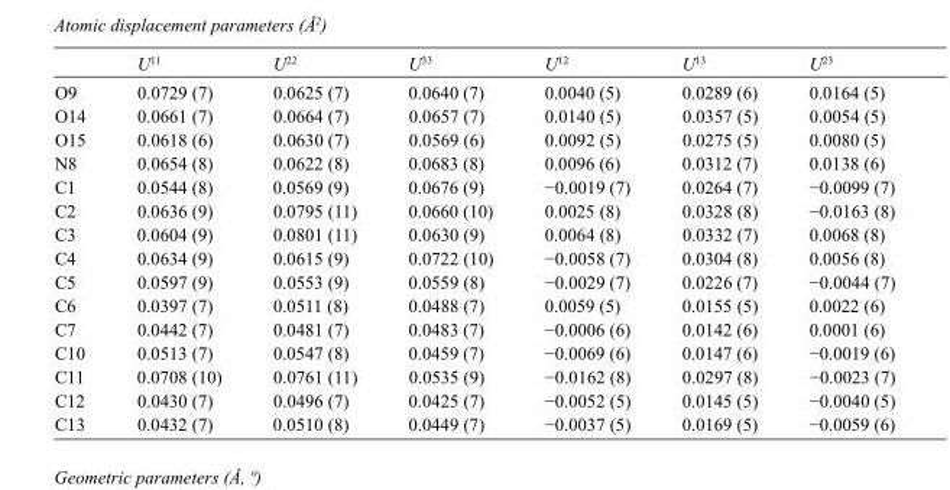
<table><thead><tr><td></td><td>U<sup>11</sup></td><td>U<sup>22</sup></td><td>U<sup>33</sup></td><td>U<sup>12</sup></td><td>U<sup>13</sup></td><td>U<sup>23</sup></td></tr></thead><tbody><tr><td>O9</td><td>0.0729 (7)</td><td>0.0625 (7)</td><td>0.0640 (7)</td><td>0.0040 (5)</td><td>0.0289 (6)</td><td>0.0164 (5)</td></tr><tr><td>O14</td><td>0.0661 (7)</td><td>0.0664 (7)</td><td>0.0657 (7)</td><td>0.0140 (5)</td><td>0.0357 (5)</td><td>0.0054 (5)</td></tr><tr><td>O15</td><td>0.0618 (6)</td><td>0.0630 (7)</td><td>0.0569 (6)</td><td>0.0092 (5)</td><td>0.0275 (5)</td><td>0.0080 (5)</td></tr><tr><td>N8</td><td>0.0654 (8)</td><td>0.0622 (8)</td><td>0.0683 (8)</td><td>0.0096 (6)</td><td>0.0312 (7)</td><td>0.0138 (6)</td></tr><tr><td>C1</td><td>0.0544 (8)</td><td>0.0569 (9)</td><td>0.0676 (9)</td><td>−0.0019 (7)</td><td>0.0264 (7)</td><td>−0.0099 (7)</td></tr><tr><td>C2</td><td>0.0636 (9)</td><td>0.0795 (11)</td><td>0.0660 (10)</td><td>0.0025 (8)</td><td>0.0328 (8)</td><td>−0.0163 (8)</td></tr><tr><td>C3</td><td>0.0604 (9)</td><td>0.0801 (11)</td><td>0.0630 (9)</td><td>0.0064 (8)</td><td>0.0332 (7)</td><td>0.0068 (8)</td></tr><tr><td>C4</td><td>0.0634 (9)</td><td>0.0615 (9)</td><td>0.0722 (10)</td><td>−0.0058 (7)</td><td>0.0304 (8)</td><td>0.0056 (8)</td></tr><tr><td>C5</td><td>0.0597 (9)</td><td>0.0553 (9)</td><td>0.0559 (8)</td><td>−0.0029 (7)</td><td>0.0226 (7)</td><td>−0.0044 (7)</td></tr><tr><td>C6</td><td>0.0397 (7)</td><td>0.0511 (8)</td><td>0.0488 (7)</td><td>0.0059 (5)</td><td>0.0155 (5)</td><td>0.0022 (6)</td></tr><tr><td>C7</td><td>0.0442 (7)</td><td>0.0481 (7)</td><td>0.0483 (7)</td><td>−0.0006 (6)</td><td>0.0142 (6)</td><td>0.0001 (6)</td></tr><tr><td>C10</td><td>0.0513 (7)</td><td>0.0547 (8)</td><td>0.0459 (7)</td><td>−0.0069 (6)</td><td>0.0147 (6)</td><td>−0.0019 (6)</td></tr><tr><td>C11</td><td>0.0708 (10)</td><td>0.0761 (11)</td><td>0.0535 (9)</td><td>−0.0162 (8)</td><td>0.0297 (8)</td><td>−0.0023 (7)</td></tr><tr><td>C12</td><td>0.0430 (7)</td><td>0.0496 (7)</td><td>0.0425 (7)</td><td>−0.0052 (5)</td><td>0.0145 (5)</td><td>−0.0040 (5)</td></tr><tr><td>C13</td><td>0.0432 (7)</td><td>0.0510 (8)</td><td>0.0449 (7)</td><td>−0.0037 (5)</td><td>0.0169 (5)</td><td>−0.0059 (6)</td></tr></tbody></table>